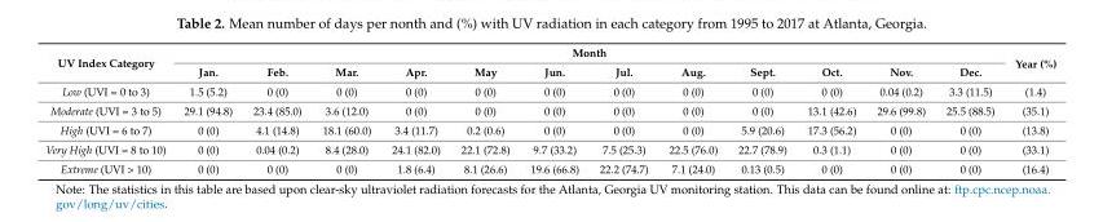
<table><thead><tr><td rowspan="2">UV Index Category</td><td colspan="12">Month</td><td rowspan="2">Year (%)</td></tr><tr><td>Jan.</td><td>Feb.</td><td>Mar.</td><td>Apr.</td><td>May</td><td>Jun.</td><td>Jul.</td><td>Aug.</td><td>Sept.</td><td>Oct.</td><td>Nov.</td><td>Dec.</td></tr></thead><tbody><tr><td>Low (UVI = 0 to 3)</td><td>1.5 (5.2)</td><td>0 (0)</td><td>0 (0)</td><td>0 (0)</td><td>0 (0)</td><td>0 (0)</td><td>0 (0)</td><td>0 (0)</td><td>0 (0)</td><td>0 (0)</td><td>0.04 (0.2)</td><td>3.3 (11.5)</td><td>(1.4)</td></tr><tr><td>Moderate (UVI = 3 to 5)</td><td>29.1 (94.8)</td><td>23.4 (85.0)</td><td>3.6 (12.0)</td><td>0 (0)</td><td>0 (0)</td><td>0 (0)</td><td>0 (0)</td><td>0 (0)</td><td>0 (0)</td><td>13.1 (42.6)</td><td>29.6 (99.8)</td><td>25.5 (88.5)</td><td>(35.1)</td></tr><tr><td>High (UVI = 6 to 7)</td><td>0 (0)</td><td>4.1 (14.8)</td><td>18.1 (60.0)</td><td>3.4 (11.7)</td><td>0.2 (0.6)</td><td>0 (0)</td><td>0 (0)</td><td>0 (0)</td><td>5.9 (20.6)</td><td>17.3 (56.2)</td><td>0 (0)</td><td>0 (0)</td><td>(13.8)</td></tr><tr><td>Very High (UVI = 8 to 10)</td><td>0 (0)</td><td>0.04 (0.2)</td><td>8.4 (28.0)</td><td>24.1 (82.0)</td><td>22.1 (72.8)</td><td>9.7 (33.2)</td><td>7.5 (25.3)</td><td>22.5 (76.0)</td><td>22.7 (78.9)</td><td>0.3 (1.1)</td><td>0 (0)</td><td>0 (0)</td><td>(33.1)</td></tr><tr><td>Extreme (UVI &gt; 10)</td><td>0 (0)</td><td>0 (0)</td><td>0 (0)</td><td>1.8 (6.4)</td><td>8.1 (26.6)</td><td>19.6 (66.8)</td><td>22.2 (74.7)</td><td>7.1 (24.0)</td><td>0.13 (0.5)</td><td>0 (0)</td><td>0 (0)</td><td>0 (0)</td><td>(16.4)</td></tr></tbody></table>